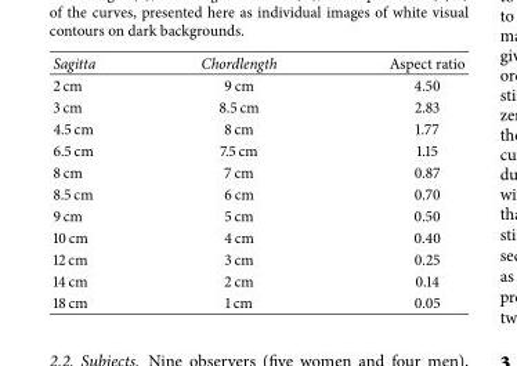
<table><tbody><tr><td>Sagitta</td><td>Chordlength</td><td>Aspect ratio</td></tr><tr><td>2 cm</td><td>9 cm</td><td>4.50</td></tr><tr><td>3 cm</td><td>8.5 cm</td><td>2.83</td></tr><tr><td>4.5 cm</td><td>8 cm</td><td>1.77</td></tr><tr><td>6.5 cm</td><td>7.5 cm</td><td>1.15</td></tr><tr><td>8 cm</td><td>7 cm</td><td>0.87</td></tr><tr><td>8.5 cm</td><td>6 cm</td><td>0.70</td></tr><tr><td>9 cm</td><td>5 cm</td><td>0.50</td></tr><tr><td>10 cm</td><td>4 cm</td><td>0.40</td></tr><tr><td>12 cm</td><td>3 cm</td><td>0.25</td></tr><tr><td>14 cm</td><td>2 cm</td><td>0.14</td></tr><tr><td>18 cm</td><td>1 cm</td><td>0.05</td></tr></tbody></table>